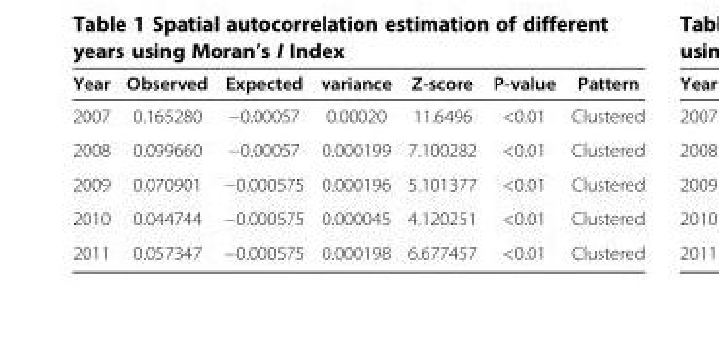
<table><thead><tr><td>Year</td><td>Observed</td><td>Expected</td><td>variance</td><td>Z-score</td><td>P-value</td><td>Pattern</td></tr></thead><tbody><tr><td>2007</td><td>0.165280</td><td>−0.00057</td><td>0.00020</td><td>11.6496</td><td>&lt;0.01</td><td>Clustered</td></tr><tr><td>2008</td><td>0.099660</td><td>−0.00057</td><td>0.000199</td><td>7.100282</td><td>&lt;0.01</td><td>Clustered</td></tr><tr><td>2009</td><td>0.070901</td><td>−0.000575</td><td>0.000196</td><td>5.101377</td><td>&lt;0.01</td><td>Clustered</td></tr><tr><td>2010</td><td>0.044744</td><td>−0.000575</td><td>0.000045</td><td>4.120251</td><td>&lt;0.01</td><td>Clustered</td></tr><tr><td>2011</td><td>0.057347</td><td>−0.000575</td><td>0.000198</td><td>6.677457</td><td>&lt;0.01</td><td>Clustered</td></tr></tbody></table>